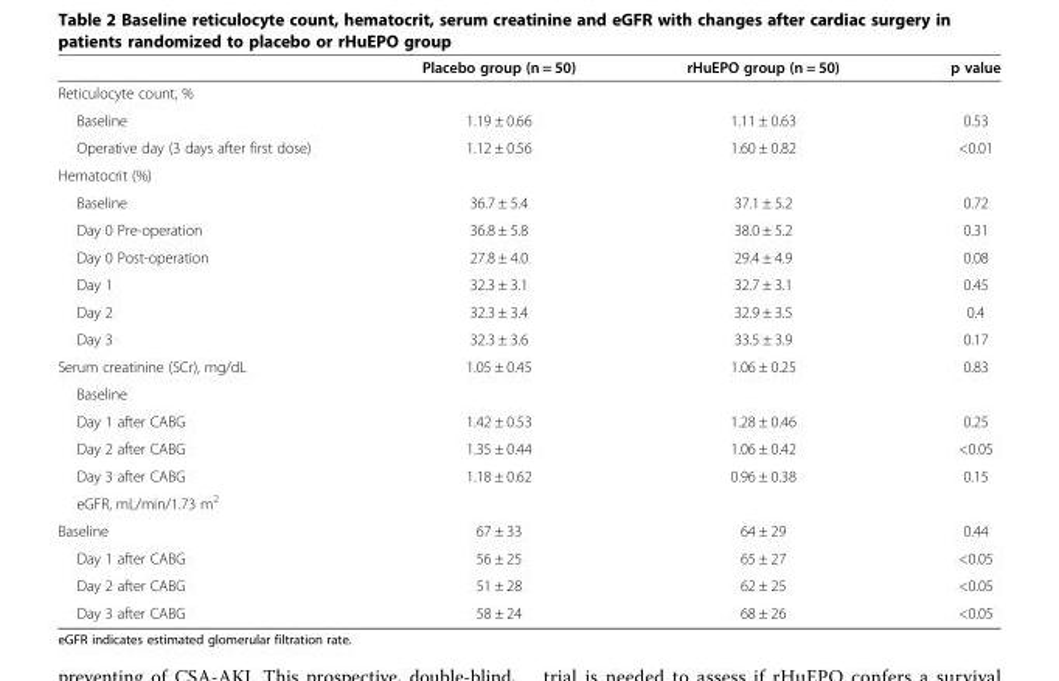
<table><thead><tr><td></td><td>Placebo group (n = 50)</td><td>rHuEPO group (n = 50)</td><td>p value</td></tr></thead><tbody><tr><td colspan="4">Reticulocyte count, %</td></tr><tr><td>Baseline</td><td>1.19 ± 0.66</td><td>1.11 ± 0.63</td><td>0.53</td></tr><tr><td>Operative day (3 days after first dose)</td><td>1.12 ± 0.56</td><td>1.60 ± 0.82</td><td>&lt;0.01</td></tr><tr><td colspan="4">Hematocrit (%)</td></tr><tr><td>Baseline</td><td>36.7 ± 5.4</td><td>37.1 ± 5.2</td><td>0.72</td></tr><tr><td>Day 0 Pre-operation</td><td>36.8 ± 5.8</td><td>38.0 ± 5.2</td><td>0.31</td></tr><tr><td>Day 0 Post-operation</td><td>27.8 ± 4.0</td><td>29.4 ± 4.9</td><td>0.08</td></tr><tr><td>Day 1</td><td>32.3 ± 3.1</td><td>32.7 ± 3.1</td><td>0.45</td></tr><tr><td>Day 2</td><td>32.3 ± 3.4</td><td>32.9 ± 3.5</td><td>0.4</td></tr><tr><td>Day 3</td><td>32.3 ± 3.6</td><td>33.5 ± 3.9</td><td>0.17</td></tr><tr><td>Serum creatinine (SCr), mg/dL</td><td>1.05 ± 0.45</td><td>1.06 ± 0.25</td><td>0.83</td></tr><tr><td colspan="4">Baseline</td></tr><tr><td>Day 1 after CABG</td><td>1.42 ± 0.53</td><td>1.28 ± 0.46</td><td>0.25</td></tr><tr><td>Day 2 after CABG</td><td>1.35 ± 0.44</td><td>1.06 ± 0.42</td><td>&lt;0.05</td></tr><tr><td>Day 3 after CABG</td><td>1.18 ± 0.62</td><td>0.96 ± 0.38</td><td>0.15</td></tr><tr><td colspan="4">eGFR, mL/min/1.73 m<sup>2</sup></td></tr><tr><td>Baseline</td><td>67 ± 33</td><td>64 ± 29</td><td>0.44</td></tr><tr><td>Day 1 after CABG</td><td>56 ± 25</td><td>65 ± 27</td><td>&lt;0.05</td></tr><tr><td>Day 2 after CABG</td><td>51 ± 28</td><td>62 ± 25</td><td>&lt;0.05</td></tr><tr><td>Day 3 after CABG</td><td>58 ± 24</td><td>68 ± 26</td><td>&lt;0.05</td></tr></tbody></table>